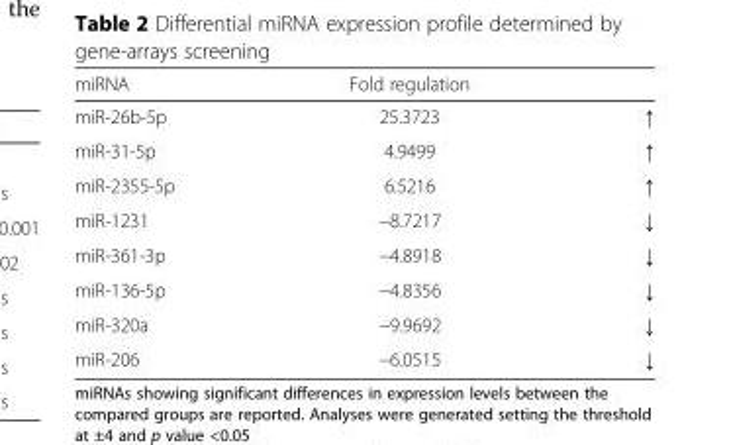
<table><thead><tr><td>miRNA</td><td>Fold regulation</td><td></td></tr></thead><tbody><tr><td>miR-26b-5p</td><td>25.3723</td><td>↑</td></tr><tr><td>miR-31-5p</td><td>4.9499</td><td>↑</td></tr><tr><td>miR-2355-5p</td><td>6.5216</td><td>↑</td></tr><tr><td>miR-1231</td><td>−8.7217</td><td>↓</td></tr><tr><td>miR-361-3p</td><td>−4.8918</td><td>↓</td></tr><tr><td>miR-136-5p</td><td>−4.8356</td><td>↓</td></tr><tr><td>miR-320a</td><td>−9.9692</td><td>↓</td></tr><tr><td>miR-206</td><td>−6.0515</td><td>↓</td></tr></tbody></table>